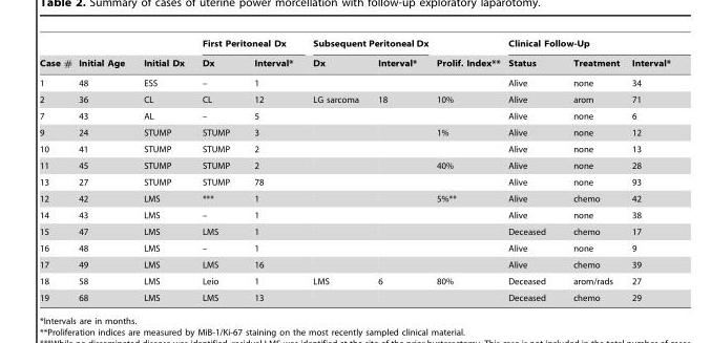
<table><thead><tr><td rowspan="2">Case #</td><td rowspan="2">Initial Age</td><td rowspan="2">Initial Dx</td><td colspan="2">First Peritoneal Dx</td><td colspan="2">Subsequent Peritoneal Dx</td><td rowspan="2">Prolif. Index**</td><td colspan="3">Clinical Follow-Up</td></tr><tr><td>Dx</td><td>Interval*</td><td>Dx</td><td>Interval*</td><td>Status</td><td>Treatment</td><td>Interval*</td></tr></thead><tbody><tr><td>1</td><td>48</td><td>ESS</td><td>–</td><td>1</td><td></td><td></td><td></td><td>Alive</td><td>none</td><td>34</td></tr><tr><td>2</td><td>36</td><td>CL</td><td>CL</td><td>12</td><td>LG sarcoma</td><td>18</td><td>10%</td><td>Alive</td><td>arom</td><td>71</td></tr><tr><td>7</td><td>43</td><td>AL</td><td>–</td><td>5</td><td></td><td></td><td></td><td>Alive</td><td>none</td><td>6</td></tr><tr><td>9</td><td>24</td><td>STUMP</td><td>STUMP</td><td>3</td><td></td><td></td><td>1%</td><td>Alive</td><td>none</td><td>12</td></tr><tr><td>10</td><td>41</td><td>STUMP</td><td>STUMP</td><td>2</td><td></td><td></td><td></td><td>Alive</td><td>none</td><td>13</td></tr><tr><td>11</td><td>45</td><td>STUMP</td><td>STUMP</td><td>2</td><td></td><td></td><td>40%</td><td>Alive</td><td>none</td><td>28</td></tr><tr><td>13</td><td>27</td><td>STUMP</td><td>STUMP</td><td>78</td><td></td><td></td><td></td><td>Alive</td><td>none</td><td>93</td></tr><tr><td>12</td><td>42</td><td>LMS</td><td>***</td><td>1</td><td></td><td></td><td>5%**</td><td>Alive</td><td>chemo</td><td>42</td></tr><tr><td>14</td><td>43</td><td>LMS</td><td>–</td><td>1</td><td></td><td></td><td></td><td>Alive</td><td>none</td><td>38</td></tr><tr><td>15</td><td>47</td><td>LMS</td><td>LMS</td><td>1</td><td></td><td></td><td></td><td>Deceased</td><td>chemo</td><td>17</td></tr><tr><td>16</td><td>48</td><td>LMS</td><td>–</td><td>1</td><td></td><td></td><td></td><td>Alive</td><td>none</td><td>9</td></tr><tr><td>17</td><td>49</td><td>LMS</td><td>LMS</td><td>16</td><td></td><td></td><td></td><td>Alive</td><td>chemo</td><td>39</td></tr><tr><td>18</td><td>58</td><td>LMS</td><td>Leio</td><td>1</td><td>LMS</td><td>6</td><td>80%</td><td>Deceased</td><td>arom/rads</td><td>27</td></tr><tr><td>19</td><td>68</td><td>LMS</td><td>LMS</td><td>13</td><td></td><td></td><td></td><td>Deceased</td><td>chemo</td><td>29</td></tr></tbody></table>